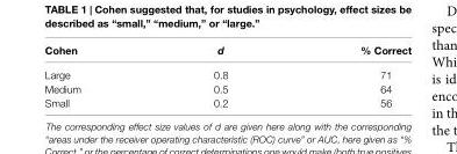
<table><thead><tr><td>Cohen</td><td>d</td><td>% Correct</td></tr></thead><tbody><tr><td>Large</td><td>0.8</td><td>71</td></tr><tr><td>Medium</td><td>0.5</td><td>64</td></tr><tr><td>Small</td><td>0.2</td><td>56</td></tr></tbody></table>